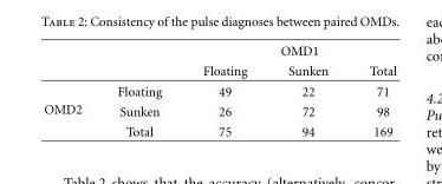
<table><thead><tr><td rowspan="2"></td><td rowspan="2"></td><td colspan="3">OMD1</td></tr><tr><td>Floating</td><td>Sunken</td><td>Total</td></tr></thead><tbody><tr><td rowspan="3">OMD2</td><td>Floating</td><td>49</td><td>22</td><td>71</td></tr><tr><td>Sunken</td><td>26</td><td>72</td><td>98</td></tr><tr><td>Total</td><td>75</td><td>94</td><td>169</td></tr></tbody></table>